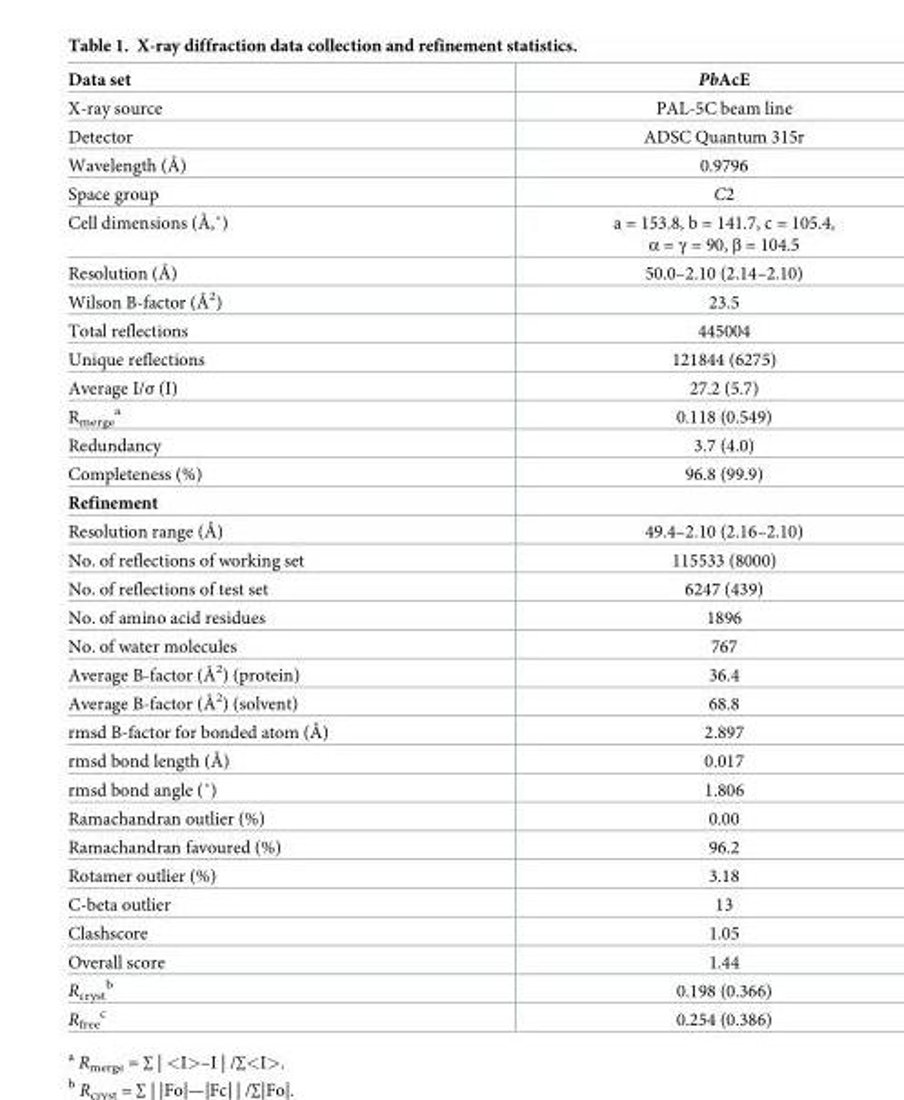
<table><thead><tr><td>Data set</td><td>PbAcE</td></tr></thead><tbody><tr><td>X-ray source</td><td>PAL-5C beam line</td></tr><tr><td>Detector</td><td>ADSC Quantum 315r</td></tr><tr><td>Wavelength (Å)</td><td>0.9796</td></tr><tr><td>Space group</td><td>C2</td></tr><tr><td>Cell dimensions (Å,˚)</td><td>a = 153.8, b = 141.7, c = 105.4, α = γ = 90, β = 104.5</td></tr><tr><td>Resolution (Å)</td><td>50.0–2.10 (2.14–2.10)</td></tr><tr><td>Wilson B-factor (Å<sup>2</sup>)</td><td>23.5</td></tr><tr><td>Total reflections</td><td>445004</td></tr><tr><td>Unique reflections</td><td>121844 (6275)</td></tr><tr><td>Average I/σ (I)</td><td>27.2 (5.7)</td></tr><tr><td>R<sub>merge</sub> <sup>a</sup></td><td>0.118 (0.549)</td></tr><tr><td>Redundancy</td><td>3.7 (4.0)</td></tr><tr><td>Completeness (%)</td><td>96.8 (99.9)</td></tr><tr><td colspan="2">Refinement</td></tr><tr><td>Resolution range (Å)</td><td>49.4–2.10 (2.16–2.10)</td></tr><tr><td>No. of reflections of working set</td><td>115533 (8000)</td></tr><tr><td>No. of reflections of test set</td><td>6247 (439)</td></tr><tr><td>No. of amino acid residues</td><td>1896</td></tr><tr><td>No. of water molecules</td><td>767</td></tr><tr><td>Average B-factor (Å<sup>2</sup>) (protein)</td><td>36.4</td></tr><tr><td>Average B-factor (Å<sup>2</sup>) (solvent)</td><td>68.8</td></tr><tr><td>rmsd B-factor for bonded atom (Å)</td><td>2.897</td></tr><tr><td>rmsd bond length (Å)</td><td>0.017</td></tr><tr><td>rmsd bond angle (˚)</td><td>1.806</td></tr><tr><td>Ramachandran outlier (%)</td><td>0.00</td></tr><tr><td>Ramachandran favoured (%)</td><td>96.2</td></tr><tr><td>Rotamer outlier (%)</td><td>3.18</td></tr><tr><td>C-beta outlier</td><td>13</td></tr><tr><td>Clashscore</td><td>1.05</td></tr><tr><td>Overall score</td><td>1.44</td></tr><tr><td>R<sub>cryst</sub> <sup>b</sup></td><td>0.198 (0.366)</td></tr><tr><td>R<sub>free</sub> <sup>c</sup></td><td>0.254 (0.386)</td></tr></tbody></table>